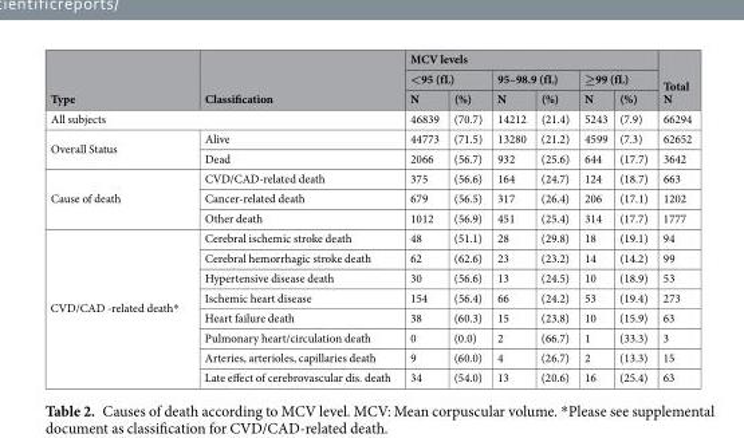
<table><thead><tr><td rowspan="3">Type</td><td rowspan="3">Classification</td><td colspan="6">MCV levels</td><td rowspan="3">Total N</td></tr><tr><td colspan="2">&lt;95 (fL)</td><td colspan="2">95–98.9 (fL)</td><td colspan="2">≥99 (fL)</td></tr><tr><td>N</td><td>(%)</td><td>N</td><td>(%)</td><td>N</td><td>(%)</td></tr></thead><tbody><tr><td colspan="2">All subjects</td><td>46839</td><td>(70.7)</td><td>14212</td><td>(21.4)</td><td>5243</td><td>(7.9)</td><td>66294</td></tr><tr><td rowspan="2">Overall Status</td><td>Alive</td><td>44773</td><td>(71.5)</td><td>13280</td><td>(21.2)</td><td>4599</td><td>(7.3)</td><td>62652</td></tr><tr><td>Dead</td><td>2066</td><td>(56.7)</td><td>932</td><td>(25.6)</td><td>644</td><td>(17.7)</td><td>3642</td></tr><tr><td rowspan="3">Cause of death</td><td>CVD/CAD-related death</td><td>375</td><td>(56.6)</td><td>164</td><td>(24.7)</td><td>124</td><td>(18.7)</td><td>663</td></tr><tr><td>Cancer-related death</td><td>679</td><td>(56.5)</td><td>317</td><td>(26.4)</td><td>206</td><td>(17.1)</td><td>1202</td></tr><tr><td>Other death</td><td>1012</td><td>(56.9)</td><td>451</td><td>(25.4)</td><td>314</td><td>(17.7)</td><td>1777</td></tr><tr><td rowspan="8">CVD/CAD -related death*</td><td>Cerebral ischemic stroke death</td><td>48</td><td>(51.1)</td><td>28</td><td>(29.8)</td><td>18</td><td>(19.1)</td><td>94</td></tr><tr><td>Cerebral hemorrhagic stroke death</td><td>62</td><td>(62.6)</td><td>23</td><td>(23.2)</td><td>14</td><td>(14.2)</td><td>99</td></tr><tr><td>Hypertensive disease death</td><td>30</td><td>(56.6)</td><td>13</td><td>(24.5)</td><td>10</td><td>(18.9)</td><td>53</td></tr><tr><td>Ischemic heart disease</td><td>154</td><td>(56.4)</td><td>66</td><td>(24.2)</td><td>53</td><td>(19.4)</td><td>273</td></tr><tr><td>Heart failure death</td><td>38</td><td>(60.3)</td><td>15</td><td>(23.8)</td><td>10</td><td>(15.9)</td><td>63</td></tr><tr><td>Pulmonary heart/circulation death</td><td>0</td><td>(0.0)</td><td>2</td><td>(66.7)</td><td>1</td><td>(33.3)</td><td>3</td></tr><tr><td>Arteries, arterioles, capillaries death</td><td>9</td><td>(60.0)</td><td>4</td><td>(26.7)</td><td>2</td><td>(13.3)</td><td>15</td></tr><tr><td>Late effect of cerebrovascular dis. death</td><td>34</td><td>(54.0)</td><td>13</td><td>(20.6)</td><td>16</td><td>(25.4)</td><td>63</td></tr></tbody></table>